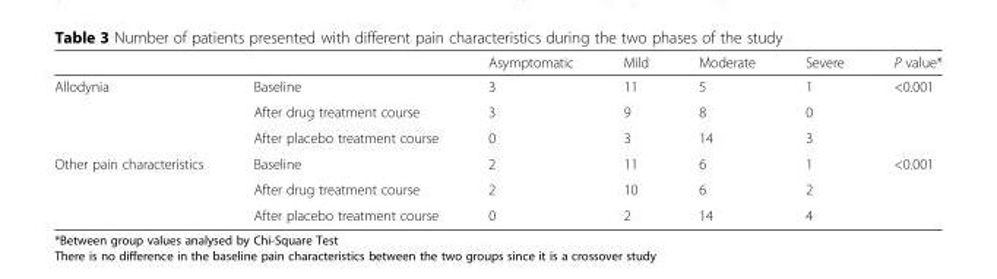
<table><thead><tr><td></td><td></td><td>Asymptomatic</td><td>Mild</td><td>Moderate</td><td>Severe</td><td>P value*</td></tr></thead><tbody><tr><td rowspan="3">Allodynia</td><td>Baseline</td><td>3</td><td>11</td><td>5</td><td>1</td><td rowspan="3">&lt;0.001</td></tr><tr><td>After drug treatment course</td><td>3</td><td>9</td><td>8</td><td>0</td></tr><tr><td>After placebo treatment course</td><td>0</td><td>3</td><td>14</td><td>3</td></tr><tr><td rowspan="3">Other pain characteristics</td><td>Baseline</td><td>2</td><td>11</td><td>6</td><td>1</td><td rowspan="3">&lt;0.001</td></tr><tr><td>After drug treatment course</td><td>2</td><td>10</td><td>6</td><td>2</td></tr><tr><td>After placebo treatment course</td><td>0</td><td>2</td><td>14</td><td>4</td></tr></tbody></table>